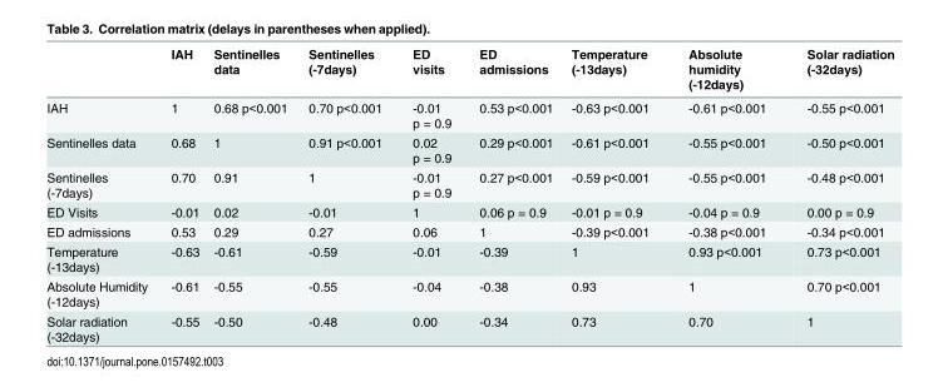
<table><thead><tr><td></td><td>IAH</td><td>Sentinelles data</td><td>Sentinelles (-7days)</td><td>ED visits</td><td>ED admissions</td><td>Temperature (-13days)</td><td>Absolute humidity (-12days)</td><td>Solar radiation (-32days)</td></tr></thead><tbody><tr><td>IAH</td><td>1</td><td>0.68 p&lt;0.001</td><td>0.70 p&lt;0.001</td><td>-0.01 p = 0.9</td><td>0.53 p&lt;0.001</td><td>-0.63 p&lt;0.001</td><td>-0.61 p&lt;0.001</td><td>-0.55 p&lt;0.001</td></tr><tr><td>Sentinelles data</td><td>0.68</td><td>1</td><td>0.91 p&lt;0.001</td><td>0.02 p = 0.9</td><td>0.29 p&lt;0.001</td><td>-0.61 p&lt;0.001</td><td>-0.55 p&lt;0.001</td><td>-0.50 p&lt;0.001</td></tr><tr><td>Sentinelles (-7days)</td><td>0.70</td><td>0.91</td><td>1</td><td>-0.01 p = 0.9</td><td>0.27 p&lt;0.001</td><td>-0.59 p&lt;0.001</td><td>-0.55 p&lt;0.001</td><td>-0.48 p&lt;0.001</td></tr><tr><td>ED Visits</td><td>-0.01</td><td>0.02</td><td>-0.01</td><td>1</td><td>0.06 p = 0.9</td><td>-0.01 p = 0.9</td><td>-0.04 p = 0.9</td><td>0.00 p = 0.9</td></tr><tr><td>ED admissions</td><td>0.53</td><td>0.29</td><td>0.27</td><td>0.06</td><td>1</td><td>-0.39 p&lt;0.001</td><td>-0.38 p&lt;0.001</td><td>-0.34 p&lt;0.001</td></tr><tr><td>Temperature (-13days)</td><td>-0.63</td><td>-0.61</td><td>-0.59</td><td>-0.01</td><td>-0.39</td><td>1</td><td>0.93 p&lt;0.001</td><td>0.73 p&lt;0.001</td></tr><tr><td>Absolute Humidity (-12days)</td><td>-0.61</td><td>-0.55</td><td>-0.55</td><td>-0.04</td><td>-0.38</td><td>0.93</td><td>1</td><td>0.70 p&lt;0.001</td></tr><tr><td>Solar radiation (-32days)</td><td>-0.55</td><td>-0.50</td><td>-0.48</td><td>0.00</td><td>-0.34</td><td>0.73</td><td>0.70</td><td>1</td></tr></tbody></table>